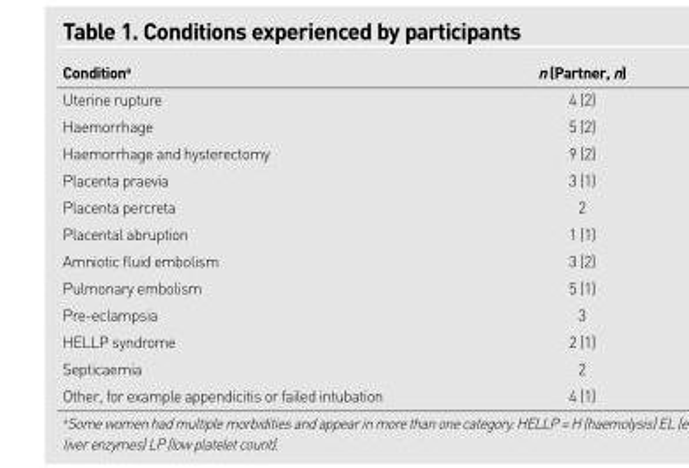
<table><thead><tr><td>Condition<sup>a</sup></td><td>n (Partner, n)</td></tr></thead><tbody><tr><td>Uterine rupture</td><td>4 (2)</td></tr><tr><td>Haemorrhage</td><td>5 (2)</td></tr><tr><td>Haemorrhage and hysterectomy</td><td>9 (2)</td></tr><tr><td>Placenta praevia</td><td>3 (1)</td></tr><tr><td>Placenta percreta</td><td>2</td></tr><tr><td>Placental abruption</td><td>1 (1)</td></tr><tr><td>Amniotic fluid embolism</td><td>3 (2)</td></tr><tr><td>Pulmonary embolism</td><td>5 (1)</td></tr><tr><td>Pre-eclampsia</td><td>3</td></tr><tr><td>HELLP syndrome</td><td>2 (1)</td></tr><tr><td>Septicaemia</td><td>2</td></tr><tr><td>Other, for example appendicitis or failed intubation</td><td>4 (1)</td></tr></tbody></table>